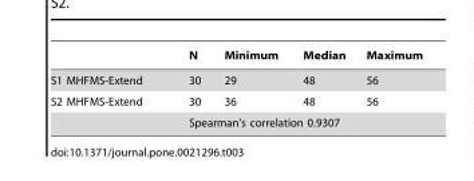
<table><thead><tr><td></td><td>N</td><td>Minimum</td><td>Median</td><td>Maximum</td></tr></thead><tbody><tr><td>S1 MHFMS-Extend</td><td>30</td><td>29</td><td>48</td><td>56</td></tr><tr><td rowspan="2">S2 MHFMS-Extend</td><td>30</td><td>36</td><td>48</td><td>56</td></tr><tr><td colspan="4">Spearman’s correlation 0.9307</td></tr></tbody></table>